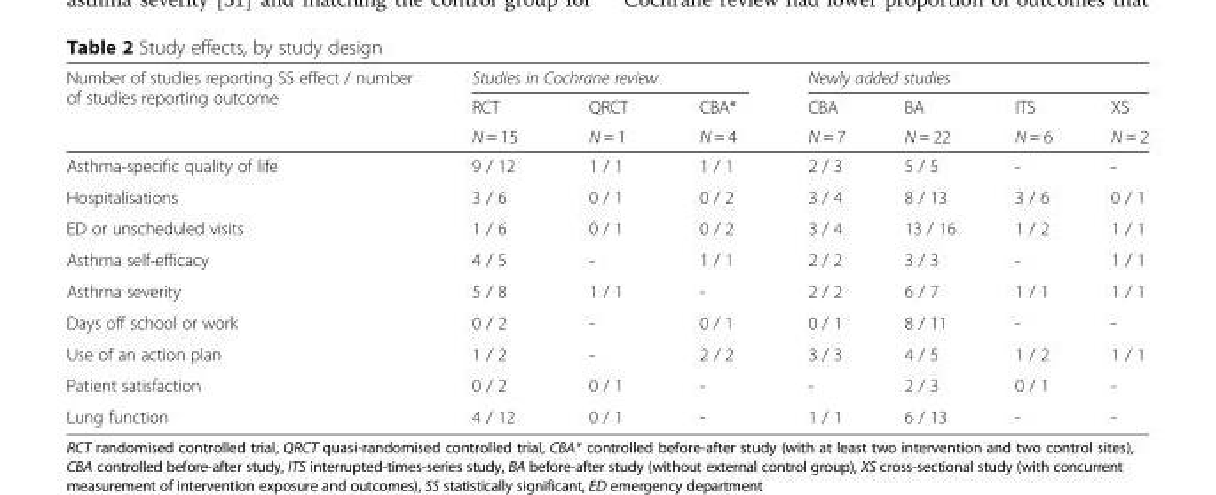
<table><thead><tr><td rowspan="3">Number of studies reporting SS effect / number of studies reporting outcome</td><td colspan="3">Studies in Cochrane review</td><td colspan="4">Newly added studies</td></tr><tr><td rowspan="2">RCT N = 15</td><td rowspan="2">QRCT N = 1</td><td rowspan="2">CBA* N = 4</td><td rowspan="2">CBA N = 7</td><td rowspan="2">BA N = 22</td><td rowspan="2">ITS N = 6</td><td rowspan="2">XS N = 2</td></tr><tr></tr></thead><tbody><tr><td>Asthma-specific quality of life</td><td>9 / 12</td><td>1 / 1</td><td>1 / 1</td><td>2 / 3</td><td>5 / 5</td><td>-</td><td>-</td></tr><tr><td>Hospitalisations</td><td>3 / 6</td><td>0 / 1</td><td>0 / 2</td><td>3 / 4</td><td>8 / 13</td><td>3 / 6</td><td>0 / 1</td></tr><tr><td>ED or unscheduled visits</td><td>1 / 6</td><td>0 / 1</td><td>0 / 2</td><td>3 / 4</td><td>13 / 16</td><td>1 / 2</td><td>1 / 1</td></tr><tr><td>Asthma self-efficacy</td><td>4 / 5</td><td>-</td><td>1 / 1</td><td>2 / 2</td><td>3 / 3</td><td>-</td><td>1 / 1</td></tr><tr><td>Asthma severity</td><td>5 / 8</td><td>1 / 1</td><td>-</td><td>2 / 2</td><td>6 / 7</td><td>1 / 1</td><td>1 / 1</td></tr><tr><td>Days off school or work</td><td>0 / 2</td><td>-</td><td>0 / 1</td><td>0 / 1</td><td>8 / 11</td><td>-</td><td>-</td></tr><tr><td>Use of an action plan</td><td>1 / 2</td><td>-</td><td>2 / 2</td><td>3 / 3</td><td>4 / 5</td><td>1 / 2</td><td>1 / 1</td></tr><tr><td>Patient satisfaction</td><td>0 / 2</td><td>0 / 1</td><td>-</td><td>-</td><td>2 / 3</td><td>0 / 1</td><td>-</td></tr><tr><td>Lung function</td><td>4 / 12</td><td>0 / 1</td><td>-</td><td>1 / 1</td><td>6 / 13</td><td>-</td><td>-</td></tr></tbody></table>